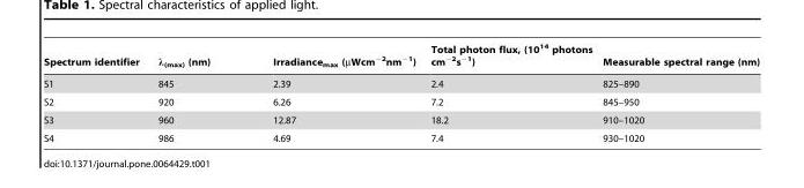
<table><thead><tr><td>Spectrum identifier</td><td>λ<sub>(max)</sub> (nm)</td><td>Irradiance<sub>max</sub> (µWcm<sup>−2</sup>nm<sup>−1</sup>)</td><td>Total photon flux, (10<sup>14</sup> photons cm<sup>−2</sup>s<sup>−1</sup>)</td><td>Measurable spectral range (nm)</td></tr></thead><tbody><tr><td>S1</td><td>845</td><td>2.39</td><td>2.4</td><td>825–890</td></tr><tr><td>S2</td><td>920</td><td>6.26</td><td>7.2</td><td>845–950</td></tr><tr><td>S3</td><td>960</td><td>12.87</td><td>18.2</td><td>910–1020</td></tr><tr><td>S4</td><td>986</td><td>4.69</td><td>7.4</td><td>930–1020</td></tr></tbody></table>